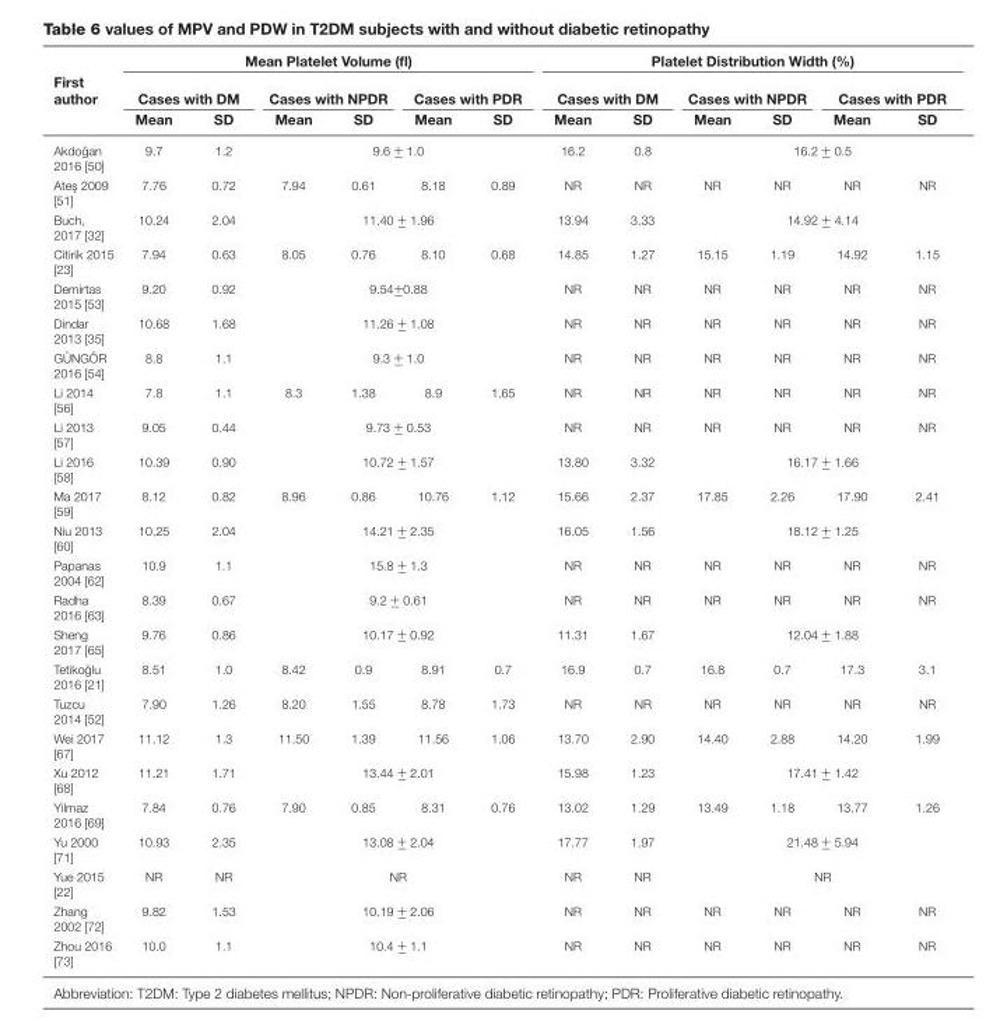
<table><thead><tr><td rowspan="3">First author</td><td colspan="6">Mean Platelet Volume (fl)</td><td colspan="6">Platelet Distribution Width (%)</td></tr><tr><td colspan="2">Cases with DM</td><td colspan="2">Cases with NPDR</td><td colspan="2">Cases with PDR</td><td colspan="2">Cases with DM</td><td colspan="2">Cases with NPDR</td><td colspan="2">Cases with PDR</td></tr><tr><td>Mean</td><td>SD</td><td>Mean</td><td>SD</td><td>Mean</td><td>SD</td><td>Mean</td><td>SD</td><td>Mean</td><td>SD</td><td>Mean</td><td>SD</td></tr></thead><tbody><tr><td>Akdo ˘gan 2016 [50]</td><td>9.7</td><td>1.2</td><td colspan="4">9.6 +− 1.0</td><td>16.2</td><td>0.8</td><td colspan="4">16.2 +− 0.5</td></tr><tr><td>Ates¸ 2009 [51]</td><td>7.76</td><td>0.72</td><td>7.94</td><td>0.61</td><td>8.18</td><td>0.89</td><td>NR</td><td>NR</td><td>NR</td><td>NR</td><td>NR</td><td>NR</td></tr><tr><td>Buch, 2017 [32]</td><td>10.24</td><td>2.04</td><td colspan="4">11.40 +− 1.96</td><td>13.94</td><td>3.33</td><td colspan="4">14.92 +− 4.14</td></tr><tr><td>Citirik 2015 [23]</td><td>7.94</td><td>0.63</td><td>8.05</td><td>0.76</td><td>8.10</td><td>0.68</td><td>14.85</td><td>1.27</td><td>15.15</td><td>1.19</td><td>14.92</td><td>1.15</td></tr><tr><td>Demirtas 2015 [53]</td><td>9.20</td><td>0.92</td><td colspan="4">9.54+−0.88</td><td>NR</td><td>NR</td><td>NR</td><td>NR</td><td>NR</td><td>NR</td></tr><tr><td>Dindar 2013 [35]</td><td>10.68</td><td>1.68</td><td colspan="4">11.26 +− 1.08</td><td>NR</td><td>NR</td><td>NR</td><td>NR</td><td>NR</td><td>NR</td></tr><tr><td>G ¨UNG ¨OR 2016 [54]</td><td>8.8</td><td>1.1</td><td colspan="4">9.3 +− 1.0</td><td>NR</td><td>NR</td><td>NR</td><td>NR</td><td>NR</td><td>NR</td></tr><tr><td>Li 2014 [56]</td><td>7.8</td><td>1.1</td><td>8.3</td><td>1.38</td><td>8.9</td><td>1.65</td><td>NR</td><td>NR</td><td>NR</td><td>NR</td><td>NR</td><td>NR</td></tr><tr><td>Li 2013 [57]</td><td>9.05</td><td>0.44</td><td colspan="4">9.73 +− 0.53</td><td>NR</td><td>NR</td><td>NR</td><td>NR</td><td>NR</td><td>NR</td></tr><tr><td>Li 2016 [58]</td><td>10.39</td><td>0.90</td><td colspan="4">10.72 +− 1.57</td><td>13.80</td><td>3.32</td><td colspan="4">16.17 +− 1.66</td></tr><tr><td>Ma 2017 [59]</td><td>8.12</td><td>0.82</td><td>8.96</td><td>0.86</td><td>10.76</td><td>1.12</td><td>15.66</td><td>2.37</td><td>17.85</td><td>2.26</td><td>17.90</td><td>2.41</td></tr><tr><td>Niu 2013 [60]</td><td>10.25</td><td>2.04</td><td colspan="4">14.21 +− 2.35</td><td>16.05</td><td>1.56</td><td colspan="4">18.12 +− 1.25</td></tr><tr><td>Papanas 2004 [62]</td><td>10.9</td><td>1.1</td><td colspan="4">15.8 +− 1.3</td><td>NR</td><td>NR</td><td>NR</td><td>NR</td><td>NR</td><td>NR</td></tr><tr><td>Radha 2016 [63]</td><td>8.39</td><td>0.67</td><td colspan="4">9.2 +− 0.61</td><td>NR</td><td>NR</td><td>NR</td><td>NR</td><td>NR</td><td>NR</td></tr><tr><td>Sheng 2017 [65]</td><td>9.76</td><td>0.86</td><td colspan="4">10.17 +− 0.92</td><td>11.31</td><td>1.67</td><td colspan="4">12.04 +− 1.88</td></tr><tr><td>Tetiko ˘glu 2016 [21]</td><td>8.51</td><td>1.0</td><td>8.42</td><td>0.9</td><td>8.91</td><td>0.7</td><td>16.9</td><td>0.7</td><td>16.8</td><td>0.7</td><td>17.3</td><td>3.1</td></tr><tr><td>Tuzcu 2014 [52]</td><td>7.90</td><td>1.26</td><td>8.20</td><td>1.55</td><td>8.78</td><td>1.73</td><td>NR</td><td>NR</td><td>NR</td><td>NR</td><td>NR</td><td>NR</td></tr><tr><td>Wei 2017 [67]</td><td>11.12</td><td>1.3</td><td>11.50</td><td>1.39</td><td>11.56</td><td>1.06</td><td>13.70</td><td>2.90</td><td>14.40</td><td>2.88</td><td>14.20</td><td>1.99</td></tr><tr><td>Xu 2012 [68]</td><td>11.21</td><td>1.71</td><td colspan="4">13.44 +− 2.01</td><td>15.98</td><td>1.23</td><td colspan="4">17.41 +− 1.42</td></tr><tr><td>Yilmaz 2016 [69]</td><td>7.84</td><td>0.76</td><td>7.90</td><td>0.85</td><td>8.31</td><td>0.76</td><td>13.02</td><td>1.29</td><td>13.49</td><td>1.18</td><td>13.77</td><td>1.26</td></tr><tr><td>Yu 2000 [71]</td><td>10.93</td><td>2.35</td><td colspan="4">13.08 +− 2.04</td><td>17.77</td><td>1.97</td><td colspan="4">21.48 +− 5.94</td></tr><tr><td>Yue 2015 [22]</td><td>NR</td><td>NR</td><td colspan="4">NR</td><td>NR</td><td>NR</td><td colspan="4">NR</td></tr><tr><td>Zhang 2002 [72]</td><td>9.82</td><td>1.53</td><td colspan="4">10.19 +− 2.06</td><td>NR</td><td>NR</td><td>NR</td><td>NR</td><td>NR</td><td>NR</td></tr><tr><td>Zhou 2016 [73]</td><td>10.0</td><td>1.1</td><td colspan="4">10.4 +− 1.1</td><td>NR</td><td>NR</td><td>NR</td><td>NR</td><td>NR</td><td>NR</td></tr></tbody></table>